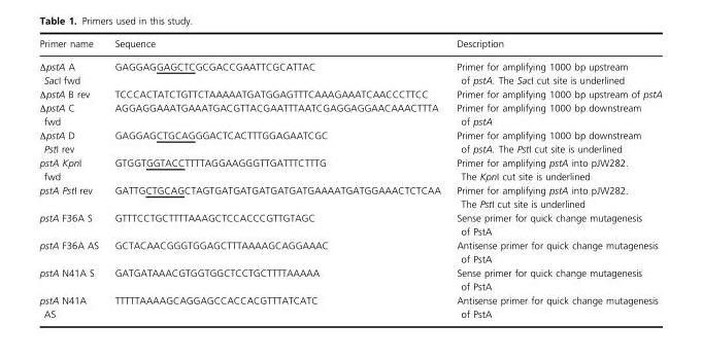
<table><thead><tr><td>Primer name</td><td>Sequence</td><td>Description</td></tr></thead><tbody><tr><td>ΔpstA A SacI fwd</td><td>GAGGAGGAGCTCGCGACCGAATTCGCATTAC</td><td>Primer for amplifying 1000 bp upstream of pstA. The SacI cut site is underlined</td></tr><tr><td>ΔpstA B rev</td><td>TCCCACTATCTGTTCTAAAAATGATGGAGTTTCAAAGAAATCAACCCTTCC</td><td>Primer for amplifying 1000 bp upstream of pstA</td></tr><tr><td>ΔpstA C fwd</td><td>AGGAGGAAATGAAATGACGTTACGAATTTAATCGAGGAGGAACAAACTTTA</td><td>Primer for amplifying 1000 bp downstream of pstA</td></tr><tr><td>ΔpstA D PstI rev</td><td>GAGGAGCTGCAGGGACTCACTTTGGAGAATCGC</td><td>Primer for amplifying 1000 bp downstream of pstA. The PstI cut site is underlined</td></tr><tr><td>pstA KpnI fwd</td><td>GTGGTGGTACCTTTTAGGAAGGGTTGATTTCTTTG</td><td>Primer for amplifying pstA into pJW282. The KpnI cut site is underlined</td></tr><tr><td>pstA PstI rev</td><td>GATTGCTGCAGCTAGTGATGATGATGATGATGAAAATGATGGAAACTCTCAA</td><td>Primer for amplifying pstA into pJW282. The PstI cut site is underlined</td></tr><tr><td>pstA F36A S</td><td>GTTTCCTGCTTTTAAAGCTCCACCCGTTGTAGC</td><td>Sense primer for quick change mutagenesis of PstA</td></tr><tr><td>pstA F36A AS</td><td>GCTACAACGGGTGGAGCTTTAAAAGCAGGAAAC</td><td>Antisense primer for quick change mutagenesis of PstA</td></tr><tr><td>pstA N41A S</td><td>GATGATAAACGTGGTGGCTCCTGCTTTTAAAAA</td><td>Sense primer for quick change mutagenesis of PstA</td></tr><tr><td>pstA N41A AS</td><td>TTTTTAAAAGCAGGAGCCACCACGTTTATCATC</td><td>Antisense primer for quick change mutagenesis of PstA</td></tr></tbody></table>